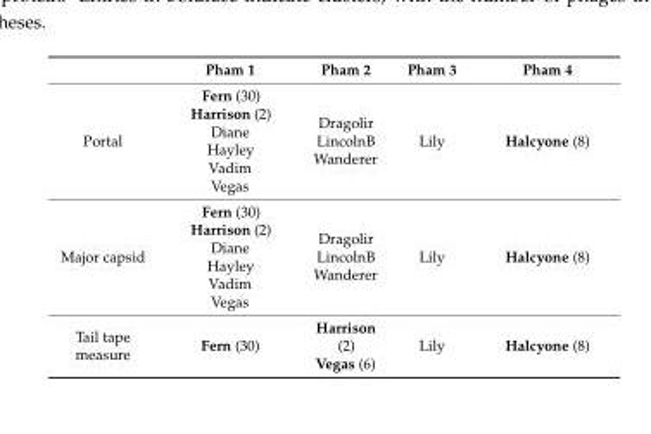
<table><thead><tr><td></td><td>Pham 1</td><td>Pham 2</td><td>Pham 3</td><td>Pham 4</td></tr></thead><tbody><tr><td>Portal</td><td>Fern (30) Harrison (2) Diane Hayley Vadim Vegas</td><td>Dragolir LincolnB Wanderer</td><td>Lily</td><td>Halcyone (8)</td></tr><tr><td>Major capsid</td><td>Fern (30) Harrison (2) Diane Hayley Vadim Vegas</td><td>Dragolir LincolnB Wanderer</td><td>Lily</td><td>Halcyone (8)</td></tr><tr><td>Tail tape measure</td><td>Fern (30)</td><td>Harrison (2) Vegas (6)</td><td>Lily</td><td>Halcyone (8)</td></tr></tbody></table>